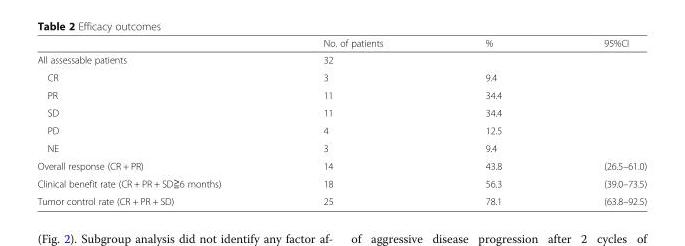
<table><thead><tr><td></td><td>No. of patients</td><td>%</td><td>95%CI</td></tr></thead><tbody><tr><td>All assessable patients</td><td>32</td><td></td><td></td></tr><tr><td>CR</td><td>3</td><td>9.4</td><td></td></tr><tr><td>PR</td><td>11</td><td>34.4</td><td></td></tr><tr><td>SD</td><td>11</td><td>34.4</td><td></td></tr><tr><td>PD</td><td>4</td><td>12.5</td><td></td></tr><tr><td>NE</td><td>3</td><td>9.4</td><td></td></tr><tr><td>Overall response (CR + PR)</td><td>14</td><td>43.8</td><td>(26.5–61.0)</td></tr><tr><td>Clinical benefit rate (CR + PR + SD≧6 months)</td><td>18</td><td>56.3</td><td>(39.0–73.5)</td></tr><tr><td>Tumor control rate (CR + PR + SD)</td><td>25</td><td>78.1</td><td>(63.8–92.5)</td></tr></tbody></table>